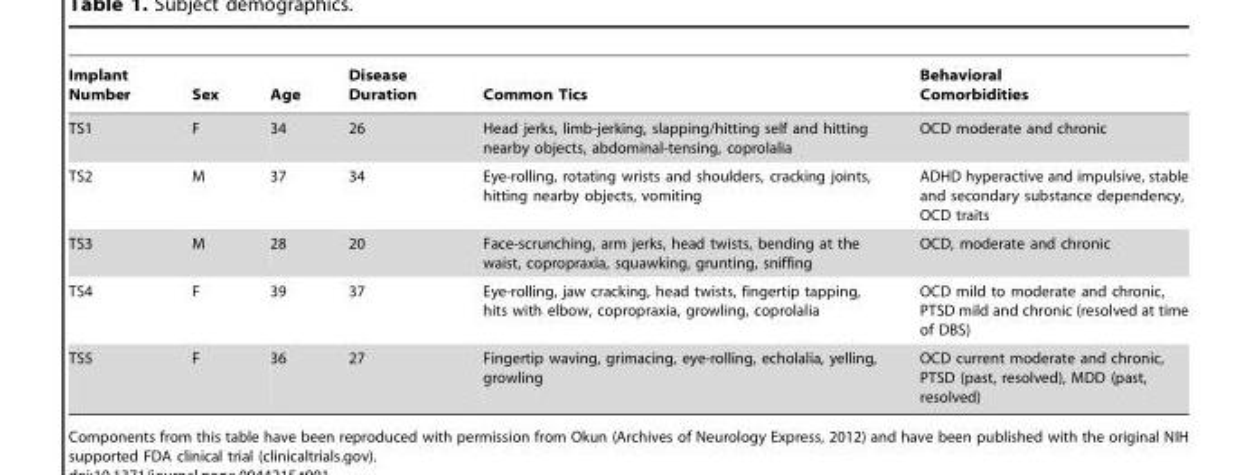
<table><thead><tr><td>Implant Number</td><td>Sex</td><td>Age</td><td>Disease Duration</td><td>Common Tics</td><td>Behavioral Comorbidities</td></tr></thead><tbody><tr><td>TS1</td><td>F</td><td>34</td><td>26</td><td>Head jerks, limb-jerking, slapping/hitting self and hitting nearby objects, abdominal-tensing, coprolalia</td><td>OCD moderate and chronic</td></tr><tr><td>TS2</td><td>M</td><td>37</td><td>34</td><td>Eye-rolling, rotating wrists and shoulders, cracking joints, hitting nearby objects, vomiting</td><td>ADHD hyperactive and impulsive, stable and secondary substance dependency, OCD traits</td></tr><tr><td>TS3</td><td>M</td><td>28</td><td>20</td><td>Face-scrunching, arm jerks, head twists, bending at the waist, copropraxia, squawking, grunting, sniffing</td><td>OCD, moderate and chronic</td></tr><tr><td>TS4</td><td>F</td><td>39</td><td>37</td><td>Eye-rolling, jaw cracking, head twists, fingertip tapping, hits with elbow, copropraxia, growling, coprolalia</td><td>OCD mild to moderate and chronic, PTSD mild and chronic (resolved at time of DBS)</td></tr><tr><td>TS5</td><td>F</td><td>36</td><td>27</td><td>Fingertip waving, grimacing, eye-rolling, echolalia, yelling, growling</td><td>OCD current moderate and chronic, PTSD (past, resolved), MDD (past, resolved)</td></tr></tbody></table>